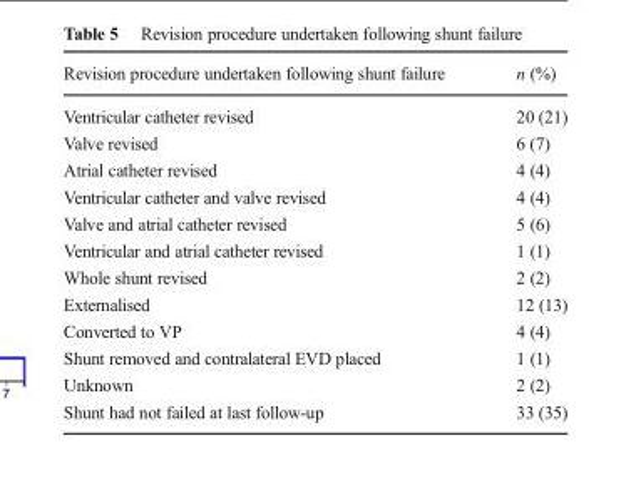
<table><thead><tr><td>Revision procedure undertaken following shunt failure</td><td>n (%)</td></tr></thead><tbody><tr><td>Ventricular catheter revised</td><td>20 (21)</td></tr><tr><td>Valve revised</td><td>6 (7)</td></tr><tr><td>Atrial catheter revised</td><td>4 (4)</td></tr><tr><td>Ventricular catheter and valve revised</td><td>4 (4)</td></tr><tr><td>Valve and atrial catheter revised</td><td>5 (6)</td></tr><tr><td>Ventricular and atrial catheter revised</td><td>1 (1)</td></tr><tr><td>Whole shunt revised</td><td>2 (2)</td></tr><tr><td>Externalised</td><td>12 (13)</td></tr><tr><td>Converted to VP</td><td>4 (4)</td></tr><tr><td>Shunt removed and contralateral EVD placed</td><td>1 (1)</td></tr><tr><td>Unknown</td><td>2 (2)</td></tr><tr><td>Shunt had not failed at last follow-up</td><td>33 (35)</td></tr></tbody></table>